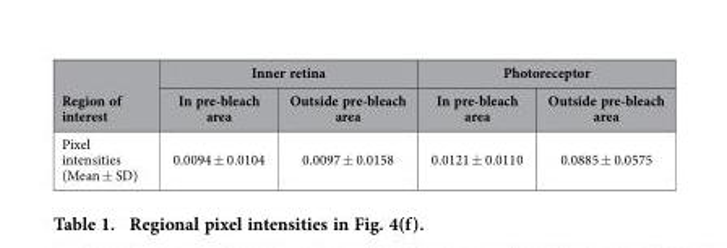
<table><thead><tr><td rowspan="2">Region of interest</td><td colspan="2">Inner retina</td><td colspan="2">Photoreceptor</td></tr><tr><td>In pre-bleach area</td><td>Outside pre-bleach area</td><td>In pre-bleach area</td><td>Outside pre-bleach area</td></tr></thead><tbody><tr><td>Pixel intensities (Mean ± SD)</td><td>0.0094 ± 0.0104</td><td>0.0097 ± 0.0158</td><td>0.0121 ± 0.0110</td><td>0.0885 ± 0.0575</td></tr></tbody></table>